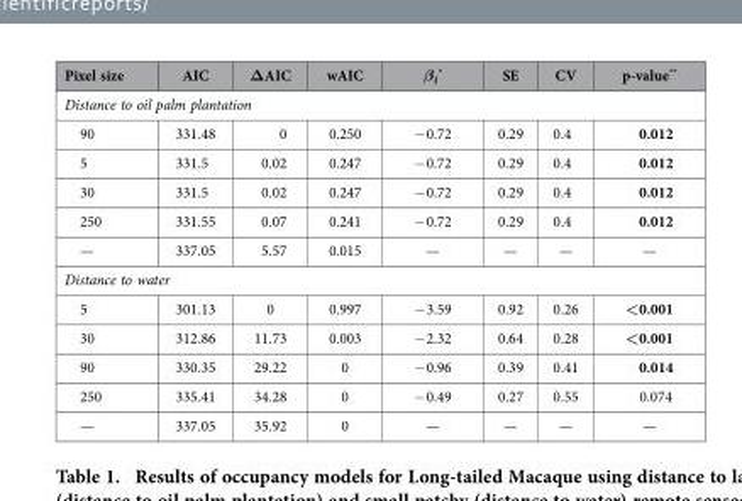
<table><thead><tr><td>Pixel size</td><td>AIC</td><td>ΔAIC</td><td>wAIC</td><td>β<sub>1</sub> *</td><td>SE</td><td>CV</td><td>p-value**</td></tr></thead><tbody><tr><td colspan="8">Distance to oil palm plantation</td></tr><tr><td>90</td><td>331.48</td><td>0</td><td>0.250</td><td>− 0.72</td><td>0.29</td><td>0.4</td><td>0.012</td></tr><tr><td>5</td><td>331.5</td><td>0.02</td><td>0.247</td><td>− 0.72</td><td>0.29</td><td>0.4</td><td>0.012</td></tr><tr><td>30</td><td>331.5</td><td>0.02</td><td>0.247</td><td>− 0.72</td><td>0.29</td><td>0.4</td><td>0.012</td></tr><tr><td>250</td><td>331.55</td><td>0.07</td><td>0.241</td><td>− 0.72</td><td>0.29</td><td>0.4</td><td>0.012</td></tr><tr><td>—</td><td>337.05</td><td>5.57</td><td>0.015</td><td>—</td><td>—</td><td>—</td><td>—</td></tr><tr><td colspan="8">Distance to water</td></tr><tr><td>5</td><td>301.13</td><td>0</td><td>0.997</td><td>− 3.59</td><td>0.92</td><td>0.26</td><td>&lt;0.001</td></tr><tr><td>30</td><td>312.86</td><td>11.73</td><td>0.003</td><td>− 2.32</td><td>0.64</td><td>0.28</td><td>&lt;0.001</td></tr><tr><td>90</td><td>330.35</td><td>29.22</td><td>0</td><td>− 0.96</td><td>0.39</td><td>0.41</td><td>0.014</td></tr><tr><td>250</td><td>335.41</td><td>34.28</td><td>0</td><td>− 0.49</td><td>0.27</td><td>0.55</td><td>0.074</td></tr><tr><td>—</td><td>337.05</td><td>35.92</td><td>0</td><td>—</td><td>—</td><td>—</td><td>—</td></tr></tbody></table>